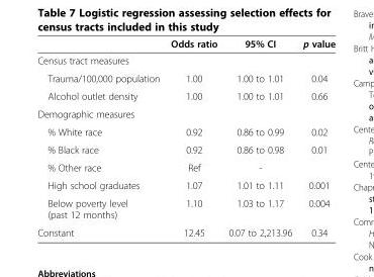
<table><thead><tr><td></td><td>Odds ratio</td><td>95% CI</td><td>p value</td></tr></thead><tbody><tr><td colspan="4">Census tract measures</td></tr><tr><td>Trauma/100,000 population</td><td>1.00</td><td>1.00 to 1.01</td><td>0.04</td></tr><tr><td>Alcohol outlet density</td><td>1.00</td><td>1.00 to 1.01</td><td>0.66</td></tr><tr><td colspan="4">Demographic measures</td></tr><tr><td>% White race</td><td>0.92</td><td>0.86 to 0.99</td><td>0.02</td></tr><tr><td>% Black race</td><td>0.92</td><td>0.86 to 0.98</td><td>0.01</td></tr><tr><td>% Other race</td><td>Ref</td><td>-</td><td></td></tr><tr><td>High school graduates</td><td>1.07</td><td>1.01 to 1.11</td><td>0.001</td></tr><tr><td>Below poverty level (past 12 months)</td><td>1.10</td><td>1.03 to 1.17</td><td>0.004</td></tr><tr><td>Constant</td><td>12.45</td><td>0.07 to 2,213.96</td><td>0.34</td></tr></tbody></table>